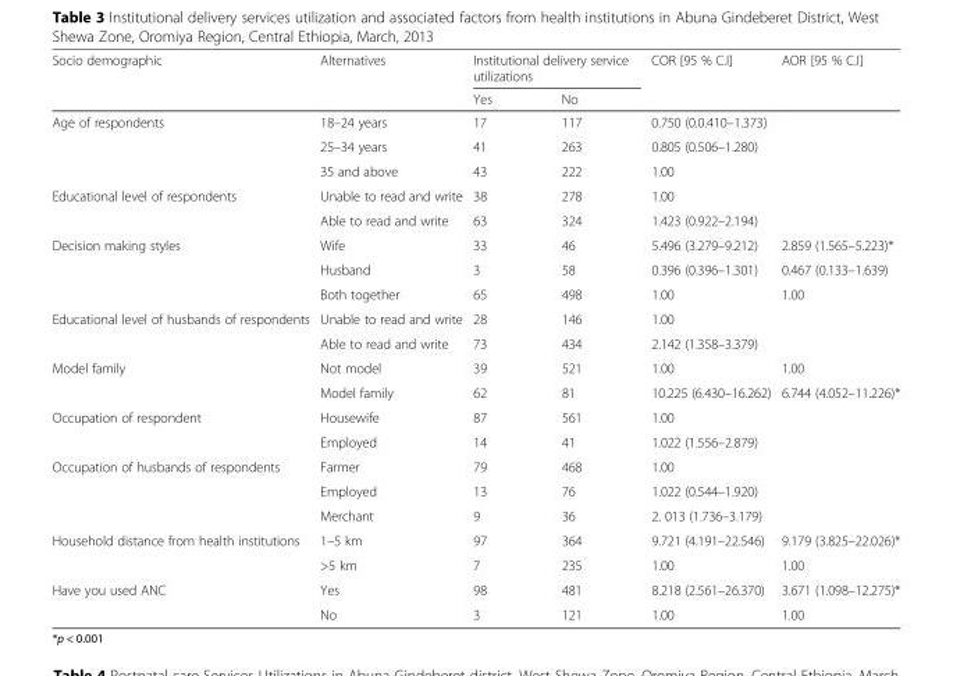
<table><thead><tr><td rowspan="2">Socio demographic</td><td rowspan="2">Alternatives</td><td colspan="2">Institutional delivery service utilizations</td><td rowspan="2">COR [95 % C.I]</td><td rowspan="2">AOR [95 % C.I]</td></tr><tr><td>Yes</td><td>No</td></tr></thead><tbody><tr><td rowspan="3">Age of respondents</td><td>18–24 years</td><td>17</td><td>117</td><td>0.750 (0.0.410–1.373)</td><td></td></tr><tr><td>25–34 years</td><td>41</td><td>263</td><td>0.805 (0.506–1.280)</td><td></td></tr><tr><td>35 and above</td><td>43</td><td>222</td><td>1.00</td><td></td></tr><tr><td rowspan="2">Educational level of respondents</td><td>Unable to read and write</td><td>38</td><td>278</td><td>1.00</td><td></td></tr><tr><td>Able to read and write</td><td>63</td><td>324</td><td>1.423 (0.922–2.194)</td><td></td></tr><tr><td rowspan="3">Decision making styles</td><td>Wife</td><td>33</td><td>46</td><td>5.496 (3.279–9.212)</td><td>2.859 (1.565–5.223)*</td></tr><tr><td>Husband</td><td>3</td><td>58</td><td>0.396 (0.396–1.301)</td><td>0.467 (0.133–1.639)</td></tr><tr><td>Both together</td><td>65</td><td>498</td><td>1.00</td><td>1.00</td></tr><tr><td rowspan="2">Educational level of husbands of respondents</td><td>Unable to read and write</td><td>28</td><td>146</td><td>1.00</td><td></td></tr><tr><td>Able to read and write</td><td>73</td><td>434</td><td>2.142 (1.358–3.379)</td><td></td></tr><tr><td rowspan="2">Model family</td><td>Not model</td><td>39</td><td>521</td><td>1.00</td><td>1.00</td></tr><tr><td>Model family</td><td>62</td><td>81</td><td>10.225 (6.430–16.262)</td><td>6.744 (4.052–11.226)*</td></tr><tr><td rowspan="2">Occupation of respondent</td><td>Housewife</td><td>87</td><td>561</td><td>1.00</td><td></td></tr><tr><td>Employed</td><td>14</td><td>41</td><td>1.022 (1.556–2.879)</td><td></td></tr><tr><td rowspan="3">Occupation of husbands of respondents</td><td>Farmer</td><td>79</td><td>468</td><td>1.00</td><td></td></tr><tr><td>Employed</td><td>13</td><td>76</td><td>1.022 (0.544–1.920)</td><td></td></tr><tr><td>Merchant</td><td>9</td><td>36</td><td>2. 013 (1.736–3.179)</td><td></td></tr><tr><td rowspan="2">Household distance from health institutions</td><td>1–5 km</td><td>97</td><td>364</td><td>9.721 (4.191–22.546)</td><td>9.179 (3.825–22.026)*</td></tr><tr><td>&gt;5 km</td><td>7</td><td>235</td><td>1.00</td><td>1.00</td></tr><tr><td rowspan="2">Have you used ANC</td><td>Yes</td><td>98</td><td>481</td><td>8.218 (2.561–26.370)</td><td>3.671 (1.098–12.275)*</td></tr><tr><td>No</td><td>3</td><td>121</td><td>1.00</td><td>1.00</td></tr></tbody></table>